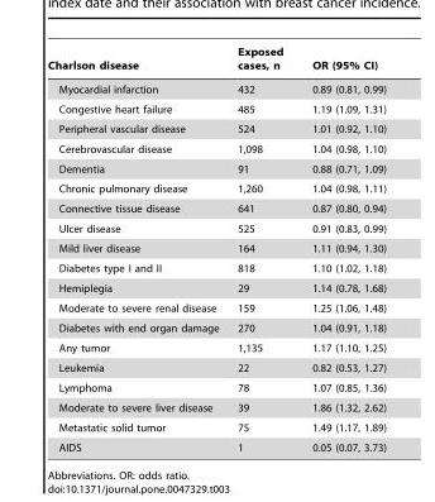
<table><thead><tr><td>Charlson disease</td><td>Exposed cases, n</td><td>OR (95% CI)</td></tr></thead><tbody><tr><td>Myocardial infarction</td><td>432</td><td>0.89 (0.81, 0.99)</td></tr><tr><td>Congestive heart failure</td><td>485</td><td>1.19 (1.09, 1.31)</td></tr><tr><td>Peripheral vascular disease</td><td>524</td><td>1.01 (0.92, 1.10)</td></tr><tr><td>Cerebrovascular disease</td><td>1,098</td><td>1.04 (0.98, 1.10)</td></tr><tr><td>Dementia</td><td>91</td><td>0.88 (0.71, 1.09)</td></tr><tr><td>Chronic pulmonary disease</td><td>1,260</td><td>1.04 (0.98, 1.11)</td></tr><tr><td>Connective tissue disease</td><td>641</td><td>0.87 (0.80, 0.94)</td></tr><tr><td>Ulcer disease</td><td>525</td><td>0.91 (0.83, 0.99)</td></tr><tr><td>Mild liver disease</td><td>164</td><td>1.11 (0.94, 1.30)</td></tr><tr><td>Diabetes type I and II</td><td>818</td><td>1.10 (1.02, 1.18)</td></tr><tr><td>Hemiplegia</td><td>29</td><td>1.14 (0.78, 1.68)</td></tr><tr><td>Moderate to severe renal disease</td><td>159</td><td>1.25 (1.06, 1.48)</td></tr><tr><td>Diabetes with end organ damage</td><td>270</td><td>1.04 (0.91, 1.18)</td></tr><tr><td>Any tumor</td><td>1,135</td><td>1.17 (1.10, 1.25)</td></tr><tr><td>Leukemia</td><td>22</td><td>0.82 (0.53, 1.27)</td></tr><tr><td>Lymphoma</td><td>78</td><td>1.07 (0.85, 1.36)</td></tr><tr><td>Moderate to severe liver disease</td><td>39</td><td>1.86 (1.32, 2.62)</td></tr><tr><td>Metastatic solid tumor</td><td>75</td><td>1.49 (1.17, 1.89)</td></tr><tr><td>AIDS</td><td>1</td><td>0.05 (0.07, 3.73)</td></tr></tbody></table>